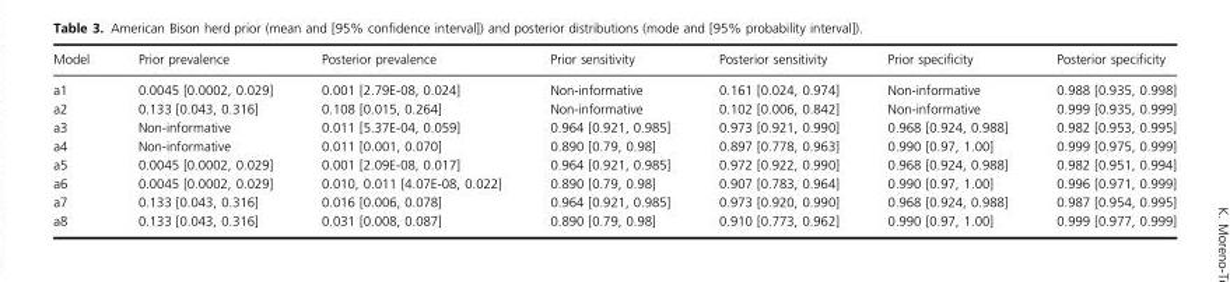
<table><thead><tr><td>Model</td><td>Prior prevalence</td><td>Posterior prevalence</td><td>Prior sensitivity</td><td>Posterior sensitivity</td><td>Prior specificity</td><td>Posterior specificity</td></tr></thead><tbody><tr><td>a1</td><td>0.0045 [0.0002, 0.029]</td><td>0.001 [2.79E-08, 0.024]</td><td>Non-informative</td><td>0.161 [0.024, 0.974]</td><td>Non-informative</td><td>0.988 [0.935, 0.998]</td></tr><tr><td>a2</td><td>0.133 [0.043, 0.316]</td><td>0.108 [0.015, 0.264]</td><td>Non-informative</td><td>0.102 [0.006, 0.842]</td><td>Non-informative</td><td>0.999 [0.935, 0.999]</td></tr><tr><td>a3</td><td>Non-informative</td><td>0.011 [5.37E-04, 0.059]</td><td>0.964 [0.921, 0.985]</td><td>0.973 [0.921, 0.990]</td><td>0.968 [0.924, 0.988]</td><td>0.982 [0.953, 0.995]</td></tr><tr><td>a4</td><td>Non-informative</td><td>0.011 [0.001, 0.070]</td><td>0.890 [0.79, 0.98]</td><td>0.897 [0.778, 0.963]</td><td>0.990 [0.97, 1.00]</td><td>0.999 [0.975, 0.999]</td></tr><tr><td>a5</td><td>0.0045 [0.0002, 0.029]</td><td>0.001 [2.09E-08, 0.017]</td><td>0.964 [0.921, 0.985]</td><td>0.972 [0.922, 0.990]</td><td>0.968 [0.924, 0.988]</td><td>0.982 [0.951, 0.994]</td></tr><tr><td>a6</td><td>0.0045 [0.0002, 0.029]</td><td>0.010, 0.011 [4.07E-08, 0.022]</td><td>0.890 [0.79, 0.98]</td><td>0.907 [0.783, 0.964]</td><td>0.990 [0.97, 1.00]</td><td>0.996 [0.971, 0.999]</td></tr><tr><td>a7</td><td>0.133 [0.043, 0.316]</td><td>0.016 [0.006, 0.078]</td><td>0.964 [0.921, 0.985]</td><td>0.973 [0.920, 0.990]</td><td>0.968 [0.924, 0.988]</td><td>0.987 [0.954, 0.995]</td></tr><tr><td>a8</td><td>0.133 [0.043, 0.316]</td><td>0.031 [0.008, 0.087]</td><td>0.890 [0.79, 0.98]</td><td>0.910 [0.773, 0.962]</td><td>0.990 [0.97, 1.00]</td><td>0.999 [0.977, 0.999]</td></tr></tbody></table>